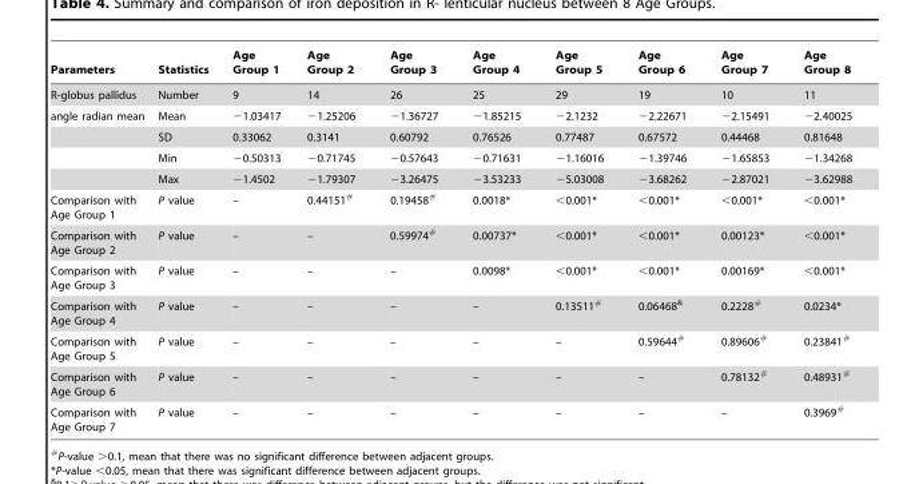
<table><thead><tr><td>Parameters</td><td>Statistics</td><td>Age Group 1</td><td>Age Group 2</td><td>Age Group 3</td><td>Age Group 4</td><td>Age Group 5</td><td>Age Group 6</td><td>Age Group 7</td><td>Age Group 8</td></tr></thead><tbody><tr><td>R-globus pallidus</td><td>Number</td><td>9</td><td>14</td><td>26</td><td>25</td><td>29</td><td>19</td><td>10</td><td>11</td></tr><tr><td rowspan="4">angle radian mean</td><td>Mean</td><td>−1.03417</td><td>−1.25206</td><td>−1.36727</td><td>−1.85215</td><td>−2.1232</td><td>−2.22671</td><td>−2.15491</td><td>−2.40025</td></tr><tr><td>SD</td><td>0.33062</td><td>0.3141</td><td>0.60792</td><td>0.76526</td><td>0.77487</td><td>0.67572</td><td>0.44468</td><td>0.81648</td></tr><tr><td>Min</td><td>−0.50313</td><td>−0.71745</td><td>−0.57643</td><td>−0.71631</td><td>−1.16016</td><td>−1.39746</td><td>−1.65853</td><td>−1.34268</td></tr><tr><td>Max</td><td>−1.4502</td><td>−1.79307</td><td>−3.26475</td><td>−3.53233</td><td>−5.03008</td><td>−3.68262</td><td>−2.87021</td><td>−3.62988</td></tr><tr><td>Comparison with Age Group 1</td><td>P value</td><td>–</td><td>0.44151#</td><td>0.19458#</td><td>0.0018*</td><td>&lt;0.001*</td><td>&lt;0.001*</td><td>&lt;0.001*</td><td>&lt;0.001*</td></tr><tr><td>Comparison with Age Group 2</td><td>P value</td><td>–</td><td>–</td><td>0.59974#</td><td>0.00737*</td><td>&lt;0.001*</td><td>&lt;0.001*</td><td>0.00123*</td><td>&lt;0.001*</td></tr><tr><td>Comparison with Age Group 3</td><td>P value</td><td>–</td><td>–</td><td>–</td><td>0.0098*</td><td>&lt;0.001*</td><td>&lt;0.001*</td><td>0.00169*</td><td>&lt;0.001*</td></tr><tr><td>Comparison with Age Group 4</td><td>P value</td><td>–</td><td>–</td><td>–</td><td>–</td><td>0.13511#</td><td>0.06468&amp;</td><td>0.2228#</td><td>0.0234*</td></tr><tr><td>Comparison with Age Group 5</td><td>P value</td><td>–</td><td>–</td><td>–</td><td>–</td><td>–</td><td>0.59644#</td><td>0.89606#</td><td>0.23841#</td></tr><tr><td>Comparison with Age Group 6</td><td>P value</td><td>–</td><td>–</td><td>–</td><td>–</td><td>–</td><td>–</td><td>0.78132#</td><td>0.48931#</td></tr><tr><td>Comparison with Age Group 7</td><td>P value</td><td>–</td><td>–</td><td>–</td><td>–</td><td>–</td><td>–</td><td>–</td><td>0.3969#</td></tr></tbody></table>